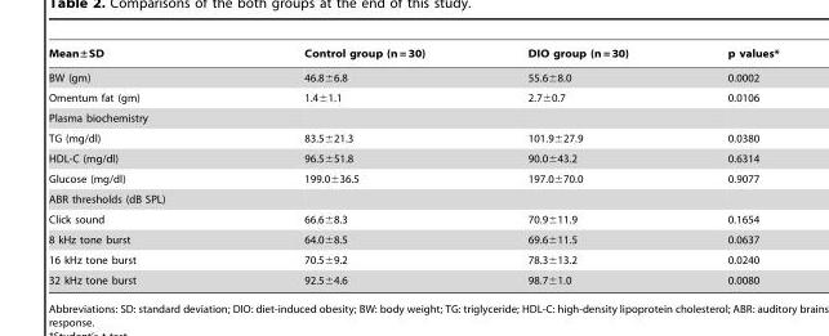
<table><thead><tr><td>Mean±SD</td><td>Control group (n = 30)</td><td>DIO group (n = 30)</td><td>p values*</td></tr></thead><tbody><tr><td>BW (gm)</td><td>46.8±6.8</td><td>55.6±8.0</td><td>0.0002</td></tr><tr><td>Omentum fat (gm)</td><td>1.4±1.1</td><td>2.7±0.7</td><td>0.0106</td></tr><tr><td colspan="4">Plasma biochemistry</td></tr><tr><td>TG (mg/dl)</td><td>83.5±21.3</td><td>101.9±27.9</td><td>0.0380</td></tr><tr><td>HDL-C (mg/dl)</td><td>96.5±51.8</td><td>90.0±43.2</td><td>0.6314</td></tr><tr><td>Glucose (mg/dl)</td><td>199.0±36.5</td><td>197.0±70.0</td><td>0.9077</td></tr><tr><td colspan="4">ABR thresholds (dB SPL)</td></tr><tr><td>Click sound</td><td>66.6±8.3</td><td>70.9±11.9</td><td>0.1654</td></tr><tr><td>8 kHz tone burst</td><td>64.0±8.5</td><td>69.6±11.5</td><td>0.0637</td></tr><tr><td>16 kHz tone burst</td><td>70.5±9.2</td><td>78.3±13.2</td><td>0.0240</td></tr><tr><td>32 kHz tone burst</td><td>92.5±4.6</td><td>98.7±1.0</td><td>0.0080</td></tr></tbody></table>